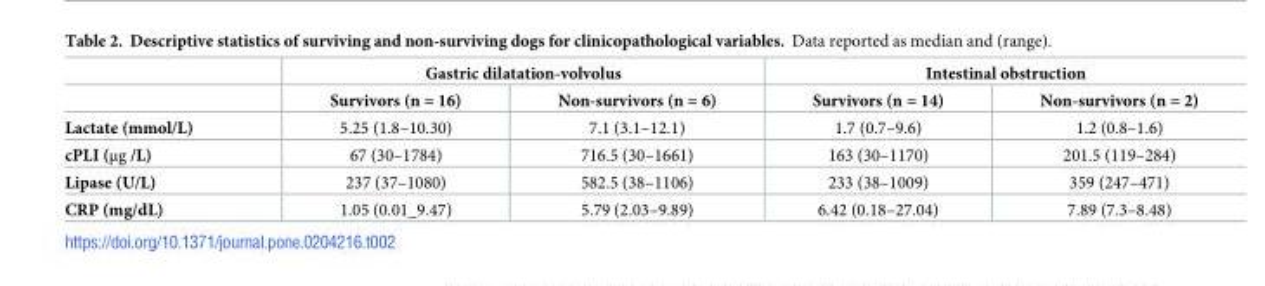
<table><thead><tr><td rowspan="2"></td><td colspan="2">Gastric dilatation-volvolus</td><td colspan="2">Intestinal obstruction</td></tr><tr><td>Survivors (n = 16)</td><td>Non-survivors (n = 6)</td><td>Survivors (n = 14)</td><td>Non-survivors (n = 2)</td></tr></thead><tbody><tr><td>Lactate (mmol/L)</td><td>5.25 (1.8–10.30)</td><td>7.1 (3.1–12.1)</td><td>1.7 (0.7–9.6)</td><td>1.2 (0.8–1.6)</td></tr><tr><td>cPLI (μg /L)</td><td>67 (30–1784)</td><td>716.5 (30–1661)</td><td>163 (30–1170)</td><td>201.5 (119–284)</td></tr><tr><td>Lipase (U/L)</td><td>237 (37–1080)</td><td>582.5 (38–1106)</td><td>233 (38–1009)</td><td>359 (247–471)</td></tr><tr><td>CRP (mg/dL)</td><td>1.05 (0.01_9.47)</td><td>5.79 (2.03–9.89)</td><td>6.42 (0.18–27.04)</td><td>7.89 (7.3–8.48)</td></tr></tbody></table>